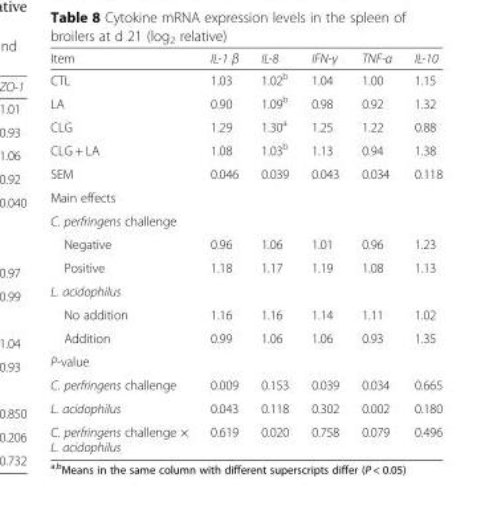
<table><thead><tr><td>Item</td><td>IL-1 β</td><td>IL-8</td><td>IFN-γ</td><td>TNF-α</td><td>IL-10</td></tr></thead><tbody><tr><td>CTL</td><td>1.03</td><td>1.02<sup>b</sup></td><td>1.04</td><td>1.00</td><td>1.15</td></tr><tr><td>LA</td><td>0.90</td><td>1.09<sup>b</sup></td><td>0.98</td><td>0.92</td><td>1.32</td></tr><tr><td>CLG</td><td>1.29</td><td>1.30<sup>a</sup></td><td>1.25</td><td>1.22</td><td>0.88</td></tr><tr><td>CLG + LA</td><td>1.08</td><td>1.03<sup>b</sup></td><td>1.13</td><td>0.94</td><td>1.38</td></tr><tr><td>SEM</td><td>0.046</td><td>0.039</td><td>0.043</td><td>0.034</td><td>0.118</td></tr><tr><td colspan="6">Main effects</td></tr><tr><td colspan="6">C. perfringens challenge</td></tr><tr><td>Negative</td><td>0.96</td><td>1.06</td><td>1.01</td><td>0.96</td><td>1.23</td></tr><tr><td>Positive</td><td>1.18</td><td>1.17</td><td>1.19</td><td>1.08</td><td>1.13</td></tr><tr><td colspan="6">L. acidophilus</td></tr><tr><td>No addition</td><td>1.16</td><td>1.16</td><td>1.14</td><td>1.11</td><td>1.02</td></tr><tr><td>Addition</td><td>0.99</td><td>1.06</td><td>1.06</td><td>0.93</td><td>1.35</td></tr><tr><td colspan="6">P-value</td></tr><tr><td>C. perfringens challenge</td><td>0.009</td><td>0.153</td><td>0.039</td><td>0.034</td><td>0.665</td></tr><tr><td>L. acidophilus</td><td>0.043</td><td>0.118</td><td>0.302</td><td>0.002</td><td>0.180</td></tr><tr><td>C. perfringens challenge × L. acidophilus</td><td>0.619</td><td>0.020</td><td>0.758</td><td>0.079</td><td>0.496</td></tr></tbody></table>